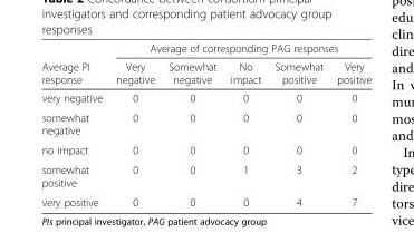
<table><thead><tr><td rowspan="2">Average PI response</td><td colspan="5">Average of corresponding PAG responses</td></tr><tr><td>Very negative</td><td>Somewhat negative</td><td>No impact</td><td>Somewhat positive</td><td>Very positive</td></tr></thead><tbody><tr><td>very negative</td><td>0</td><td>0</td><td>0</td><td>0</td><td>0</td></tr><tr><td>somewhat negative</td><td>0</td><td>0</td><td>0</td><td>0</td><td>0</td></tr><tr><td>no impact</td><td>0</td><td>0</td><td>0</td><td>0</td><td>0</td></tr><tr><td>somewhat positive</td><td>0</td><td>0</td><td>1</td><td>3</td><td>2</td></tr><tr><td>very positive</td><td>0</td><td>0</td><td>0</td><td>4</td><td>7</td></tr></tbody></table>